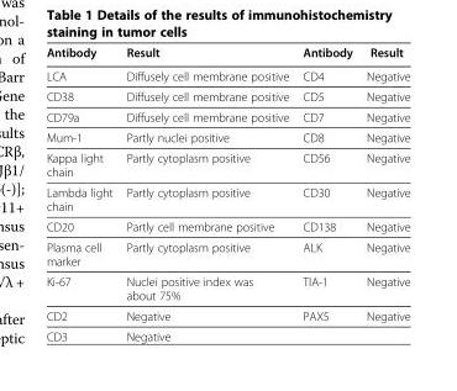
<table><thead><tr><td>Antibody</td><td>Result</td><td>Antibody</td><td>Result</td></tr></thead><tbody><tr><td>LCA</td><td>Diffusely cell membrane positive</td><td>CD4</td><td>Negative</td></tr><tr><td>CD38</td><td>Diffusely cell membrane positive</td><td>CD5</td><td>Negative</td></tr><tr><td>CD79a</td><td>Diffusely cell membrane positive</td><td>CD7</td><td>Negative</td></tr><tr><td>Mum-1</td><td>Partly nuclei positive</td><td>CD8</td><td>Negative</td></tr><tr><td>Kappa light chain</td><td>Partly cytoplasm positive</td><td>CD56</td><td>Negative</td></tr><tr><td>Lambda light chain</td><td>Partly cytoplasm positive</td><td>CD30</td><td>Negative</td></tr><tr><td>CD20</td><td>Partly cell membrane positive</td><td>CD138</td><td>Negative</td></tr><tr><td>Plasma cell marker</td><td>Partly cytoplasm positive</td><td>ALK</td><td>Negative</td></tr><tr><td>Ki-67</td><td>Nuclei positive index was about 75%</td><td>TIA-1</td><td>Negative</td></tr><tr><td>CD2</td><td>Negative</td><td>PAX5</td><td>Negative</td></tr><tr><td>CD3</td><td>Negative</td><td></td><td></td></tr></tbody></table>